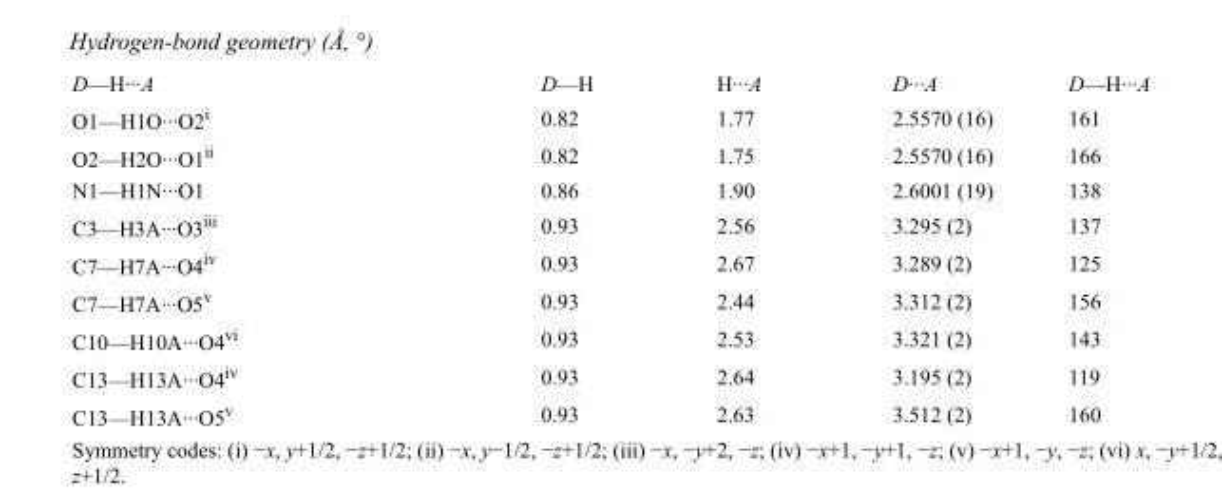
<table><tbody><tr><td>D—H···A</td><td>D—H</td><td>H···A</td><td>D···A</td><td>D—H···A</td></tr><tr><td>O1—H1O···O2<sup>i</sup></td><td>0.82</td><td>1.77</td><td>2.5570 (16)</td><td>161</td></tr><tr><td>O2—H2O···O1<sup>ii</sup></td><td>0.82</td><td>1.75</td><td>2.5570 (16)</td><td>166</td></tr><tr><td>N1—H1N···O1</td><td>0.86</td><td>1.90</td><td>2.6001 (19)</td><td>138</td></tr><tr><td>C3—H3A···O3<sup>iii</sup></td><td>0.93</td><td>2.56</td><td>3.295 (2)</td><td>137</td></tr><tr><td>C7—H7A···O4<sup>iv</sup></td><td>0.93</td><td>2.67</td><td>3.289 (2)</td><td>125</td></tr><tr><td>C7—H7A···O5<sup>v</sup></td><td>0.93</td><td>2.44</td><td>3.312 (2)</td><td>156</td></tr><tr><td>C10—H10A···O4<sup>vi</sup></td><td>0.93</td><td>2.53</td><td>3.321 (2)</td><td>143</td></tr><tr><td>C13—H13A···O4<sup>iv</sup></td><td>0.93</td><td>2.64</td><td>3.195 (2)</td><td>119</td></tr><tr><td>C13—H13A···O5<sup>v</sup></td><td>0.93</td><td>2.63</td><td>3.512 (2)</td><td>160</td></tr></tbody></table>